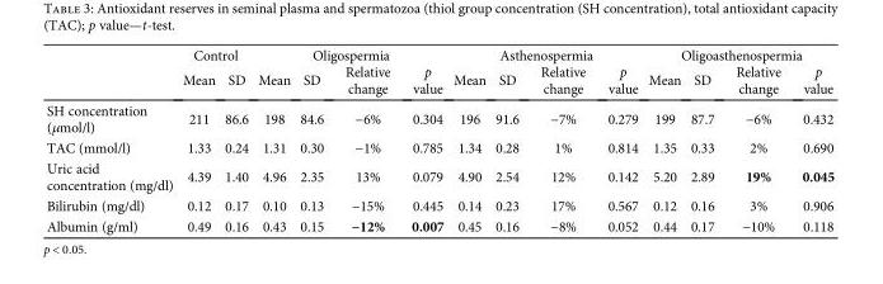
<table><thead><tr><td rowspan="2"></td><td colspan="2">Control</td><td colspan="4">Oligospermia</td><td colspan="4">Asthenospermia</td><td colspan="4">Oligoasthenospermia</td></tr><tr><td>Mean</td><td>SD</td><td>Mean</td><td>SD</td><td>Relative change</td><td>p value</td><td>Mean</td><td>SD</td><td>Relative change</td><td>p value</td><td>Mean</td><td>SD</td><td>Relative change</td><td>p value</td></tr></thead><tbody><tr><td>SH concentration (μmol/l)</td><td>211</td><td>86.6</td><td>198</td><td>84.6</td><td>−6%</td><td>0.304</td><td>196</td><td>91.6</td><td>−7%</td><td>0.279</td><td>199</td><td>87.7</td><td>−6%</td><td>0.432</td></tr><tr><td>TAC (mmol/l)</td><td>1.33</td><td>0.24</td><td>1.31</td><td>0.30</td><td>−1%</td><td>0.785</td><td>1.34</td><td>0.28</td><td>1%</td><td>0.814</td><td>1.35</td><td>0.33</td><td>2%</td><td>0.690</td></tr><tr><td>Uric acid concentration (mg/dl)</td><td>4.39</td><td>1.40</td><td>4.96</td><td>2.35</td><td>13%</td><td>0.079</td><td>4.90</td><td>2.54</td><td>12%</td><td>0.142</td><td>5.20</td><td>2.89</td><td>19%</td><td>0.045</td></tr><tr><td>Bilirubin (mg/dl)</td><td>0.12</td><td>0.17</td><td>0.10</td><td>0.13</td><td>−15%</td><td>0.445</td><td>0.14</td><td>0.23</td><td>17%</td><td>0.567</td><td>0.12</td><td>0.16</td><td>3%</td><td>0.906</td></tr><tr><td>Albumin (g/ml)</td><td>0.49</td><td>0.16</td><td>0.43</td><td>0.15</td><td>−12%</td><td>0.007</td><td>0.45</td><td>0.16</td><td>−8%</td><td>0.052</td><td>0.44</td><td>0.17</td><td>−10%</td><td>0.118</td></tr></tbody></table>